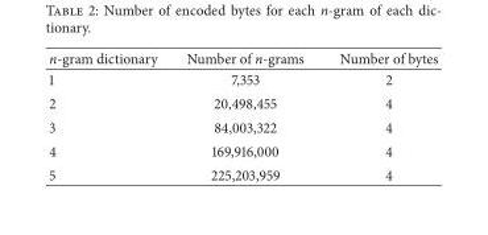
<table><thead><tr><td>n-gram dictionary</td><td>Number of n-grams</td><td>Number of bytes</td></tr></thead><tbody><tr><td>1</td><td>7,353</td><td>2</td></tr><tr><td>2</td><td>20,498,455</td><td>4</td></tr><tr><td>3</td><td>84,003,322</td><td>4</td></tr><tr><td>4</td><td>169,916,000</td><td>4</td></tr><tr><td>5</td><td>225,203,959</td><td>4</td></tr></tbody></table>